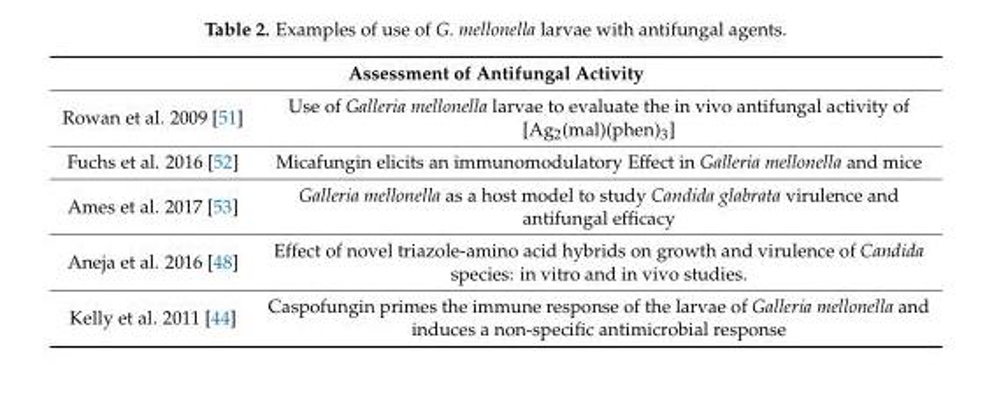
<table><thead><tr><td colspan="2">Assessment of Antifungal Activity</td></tr><tr><td>Rowan et al. 2009 [51]</td><td>Use of Galleria mellonella larvae to evaluate the in vivo antifungal activity of [Ag<sub>2</sub>(mal)(phen)<sub>3</sub>]</td></tr></thead><tbody><tr><td>Fuchs et al. 2016 [52]</td><td>Micafungin elicits an immunomodulatory Effect in Galleria mellonella and mice</td></tr><tr><td>Ames et al. 2017 [53]</td><td>Galleria mellonella as a host model to study Candida glabrata virulence and antifungal efficacy</td></tr><tr><td>Aneja et al. 2016 [48]</td><td>Effect of novel triazole-amino acid hybrids on growth and virulence of Candida species: in vitro and in vivo studies.</td></tr><tr><td>Kelly et al. 2011 [44]</td><td>Caspofungin primes the immune response of the larvae of Galleria mellonella and induces a non-specific antimicrobial response</td></tr></tbody></table>